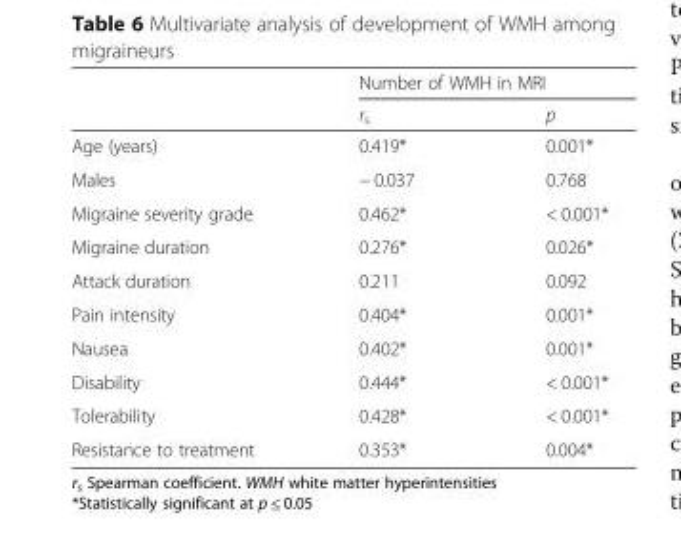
<table><thead><tr><td rowspan="2"></td><td colspan="2">Number of WMH in MRI</td></tr><tr><td>r<sub>s</sub></td><td>p</td></tr></thead><tbody><tr><td>Age (years)</td><td>0.419*</td><td>0.001*</td></tr><tr><td>Males</td><td>− 0.037</td><td>0.768</td></tr><tr><td>Migraine severity grade</td><td>0.462*</td><td>&lt; 0.001*</td></tr><tr><td>Migraine duration</td><td>0.276*</td><td>0.026*</td></tr><tr><td>Attack duration</td><td>0.211</td><td>0.092</td></tr><tr><td>Pain intensity</td><td>0.404*</td><td>0.001*</td></tr><tr><td>Nausea</td><td>0.402*</td><td>0.001*</td></tr><tr><td>Disability</td><td>0.444*</td><td>&lt; 0.001*</td></tr><tr><td>Tolerability</td><td>0.428*</td><td>&lt; 0.001*</td></tr><tr><td>Resistance to treatment</td><td>0.353*</td><td>0.004*</td></tr></tbody></table>